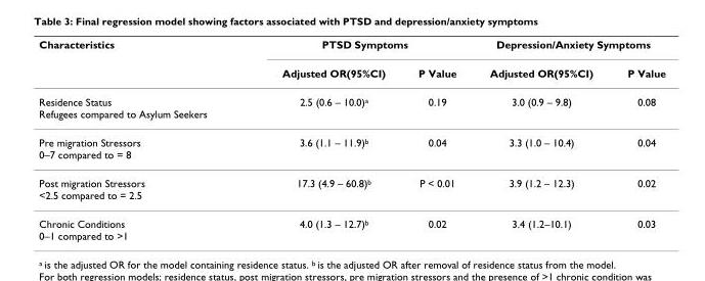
<table><thead><tr><td rowspan="2">Characteristics</td><td colspan="2">PTSD Symptoms</td><td colspan="2">Depression/Anxiety Symptoms</td></tr><tr><td>Adjusted OR(95%CI)</td><td>P Value</td><td>Adjusted OR(95%CI)</td><td>P Value</td></tr></thead><tbody><tr><td>Residence Status Refugees compared to Asylum Seekers</td><td>2.5 (0.6 – 10.0)<sup>a</sup></td><td>0.19</td><td>3.0 (0.9 – 9.8)</td><td>0.08</td></tr><tr><td>Pre migration Stressors 0–7 compared to = 8</td><td>3.6 (1.1 – 11.9)<sup>b</sup></td><td>0.04</td><td>3.3 (1.0 – 10.4)</td><td>0.04</td></tr><tr><td>Post migration Stressors &lt;2.5 compared to = 2.5</td><td>17.3 (4.9 – 60.8)<sup>b</sup></td><td>P &lt; 0.01</td><td>3.9 (1.2 – 12.3)</td><td>0.02</td></tr><tr><td>Chronic Conditions 0–1 compared to &gt;1</td><td>4.0 (1.3 – 12.7)<sup>b</sup></td><td>0.02</td><td>3.4 (1.2–10.1)</td><td>0.03</td></tr></tbody></table>